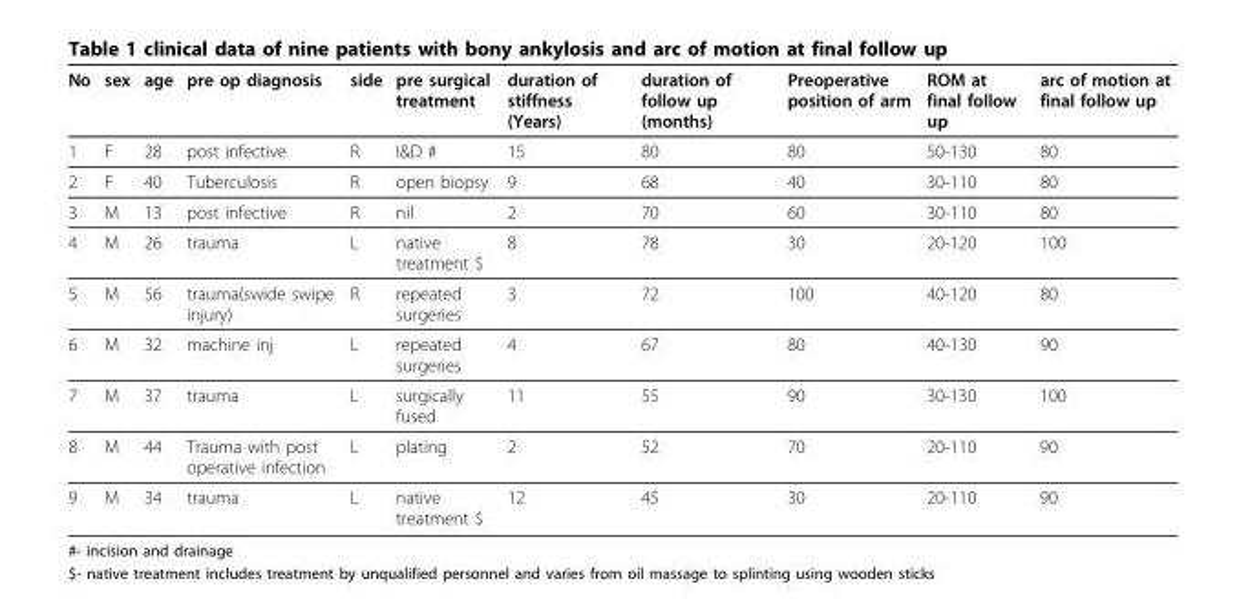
<table><thead><tr><td>No</td><td>sex</td><td>age</td><td>pre op diagnosis</td><td>side</td><td>pre surgical treatment</td><td>duration of stiffness (Years)</td><td>duration of follow up (months)</td><td>Preoperative position of arm</td><td>ROM at final follow up</td><td>arc of motion at final follow up</td></tr></thead><tbody><tr><td>1</td><td>F</td><td>28</td><td>post infective</td><td>R</td><td>I&amp;D #</td><td>15</td><td>80</td><td>80</td><td>50-130</td><td>80</td></tr><tr><td>2</td><td>F</td><td>40</td><td>Tuberculosis</td><td>R</td><td>open biopsy</td><td>9</td><td>68</td><td>40</td><td>30-110</td><td>80</td></tr><tr><td>3</td><td>M</td><td>13</td><td>post infective</td><td>R</td><td>nil</td><td>2</td><td>70</td><td>60</td><td>30-110</td><td>80</td></tr><tr><td>4</td><td>M</td><td>26</td><td>trauma</td><td>L</td><td>native treatment $</td><td>8</td><td>78</td><td>30</td><td>20-120</td><td>100</td></tr><tr><td>5</td><td>M</td><td>56</td><td>trauma(swide swipe injury)</td><td>R</td><td>repeated surgeries</td><td>3</td><td>72</td><td>100</td><td>40-120</td><td>80</td></tr><tr><td>6</td><td>M</td><td>32</td><td>machine inj</td><td>L</td><td>repeated surgeries</td><td>4</td><td>67</td><td>80</td><td>40-130</td><td>90</td></tr><tr><td>7</td><td>M</td><td>37</td><td>trauma</td><td>L</td><td>surgically fused</td><td>11</td><td>55</td><td>90</td><td>30-130</td><td>100</td></tr><tr><td>8</td><td>M</td><td>44</td><td>Trauma with post operative infection</td><td>L</td><td>plating</td><td>2</td><td>52</td><td>70</td><td>20-110</td><td>90</td></tr><tr><td>9</td><td>M</td><td>34</td><td>trauma</td><td>L</td><td>native treatment $</td><td>12</td><td>45</td><td>30</td><td>20-110</td><td>90</td></tr></tbody></table>